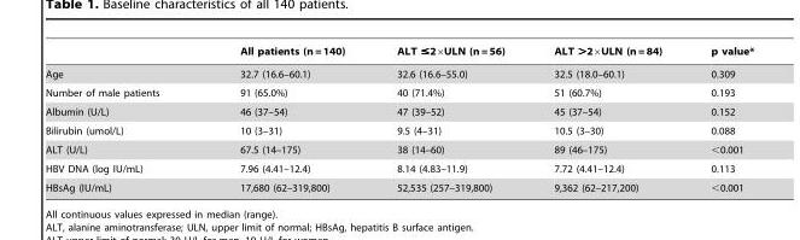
<table><thead><tr><td></td><td>All patients (n = 140)</td><td>ALT ≤2×ULN (n = 56)</td><td>ALT &gt;2×ULN (n = 84)</td><td>p value*</td></tr></thead><tbody><tr><td>Age</td><td>32.7 (16.6–60.1)</td><td>32.6 (16.6–55.0)</td><td>32.5 (18.0–60.1)</td><td>0.309</td></tr><tr><td>Number of male patients</td><td>91 (65.0%)</td><td>40 (71.4%)</td><td>51 (60.7%)</td><td>0.193</td></tr><tr><td>Albumin (U/L)</td><td>46 (37–54)</td><td>47 (39–52)</td><td>45 (37–54)</td><td>0.152</td></tr><tr><td>Bilirubin (umol/L)</td><td>10 (3–31)</td><td>9.5 (4–31)</td><td>10.5 (3–30)</td><td>0.088</td></tr><tr><td>ALT (U/L)</td><td>67.5 (14–175)</td><td>38 (14–60)</td><td>89 (46–175)</td><td>&lt;0.001</td></tr><tr><td>HBV DNA (log IU/mL)</td><td>7.96 (4.41–12.4)</td><td>8.14 (4.83–11.9)</td><td>7.72 (4.41–12.4)</td><td>0.113</td></tr><tr><td>HBsAg (IU/mL)</td><td>17,680 (62–319,800)</td><td>52,535 (257–319,800)</td><td>9,362 (62–217,200)</td><td>&lt;0.001</td></tr></tbody></table>